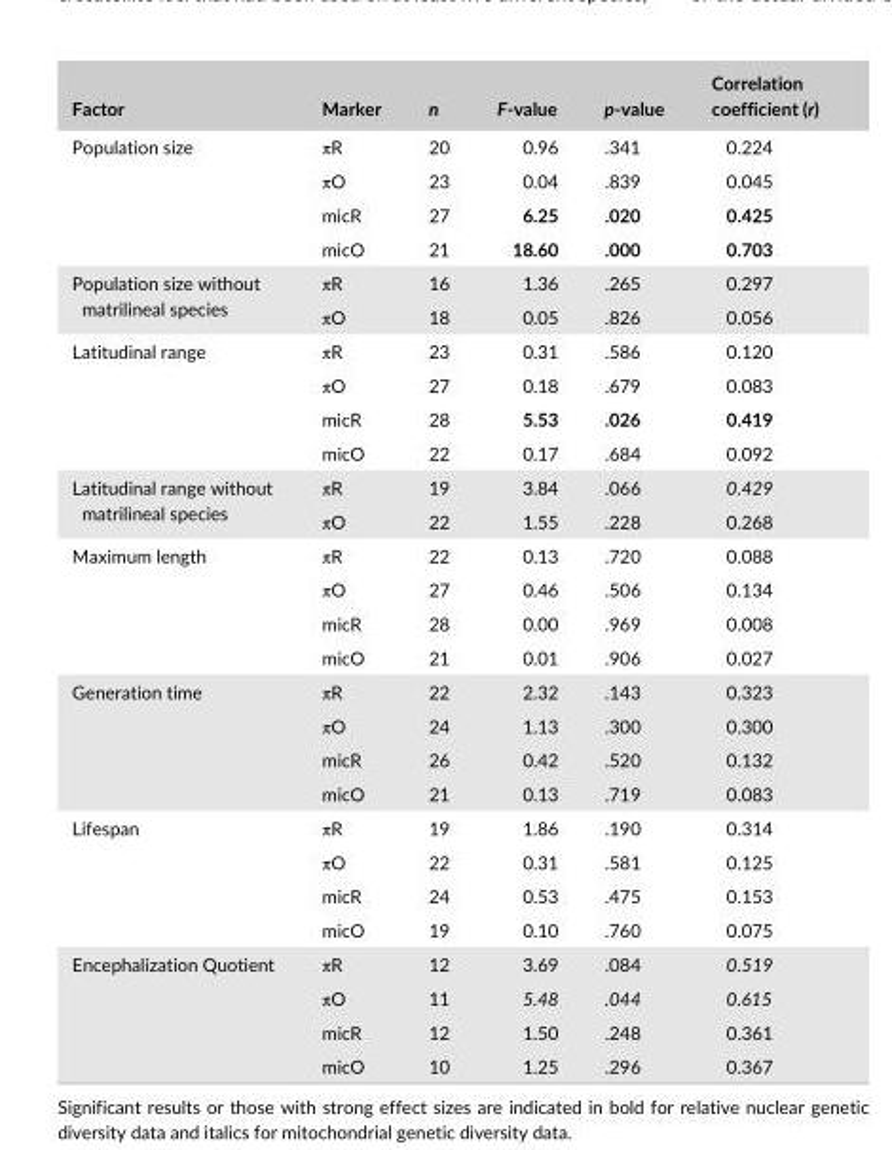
<table><thead><tr><td>Factor</td><td>Marker</td><td>n</td><td>F- value</td><td>p- value</td><td>Correlation coefficient (r)</td></tr></thead><tbody><tr><td rowspan="4">Population size</td><td>πR</td><td>20</td><td>0.96</td><td>.341</td><td>0.224</td></tr><tr><td>πO</td><td>23</td><td>0.04</td><td>.839</td><td>0.045</td></tr><tr><td>micR</td><td>27</td><td>6.25</td><td>.020</td><td>0.425</td></tr><tr><td>micO</td><td>21</td><td>18.60</td><td>.000</td><td>0.703</td></tr><tr><td rowspan="2">Population size without matrilineal species</td><td>πR</td><td>16</td><td>1.36</td><td>.265</td><td>0.297</td></tr><tr><td>πO</td><td>18</td><td>0.05</td><td>.826</td><td>0.056</td></tr><tr><td rowspan="4">Latitudinal range</td><td>πR</td><td>23</td><td>0.31</td><td>.586</td><td>0.120</td></tr><tr><td>πO</td><td>27</td><td>0.18</td><td>.679</td><td>0.083</td></tr><tr><td>micR</td><td>28</td><td>5.53</td><td>.026</td><td>0.419</td></tr><tr><td>micO</td><td>22</td><td>0.17</td><td>.684</td><td>0.092</td></tr><tr><td rowspan="2">Latitudinal range without matrilineal species</td><td>πR</td><td>19</td><td>3.84</td><td>.066</td><td>0.429</td></tr><tr><td>πO</td><td>22</td><td>1.55</td><td>.228</td><td>0.268</td></tr><tr><td rowspan="4">Maximum length</td><td>πR</td><td>22</td><td>0.13</td><td>.720</td><td>0.088</td></tr><tr><td>πO</td><td>27</td><td>0.46</td><td>.506</td><td>0.134</td></tr><tr><td>micR</td><td>28</td><td>0.00</td><td>.969</td><td>0.008</td></tr><tr><td>micO</td><td>21</td><td>0.01</td><td>.906</td><td>0.027</td></tr><tr><td rowspan="4">Generation time</td><td>πR</td><td>22</td><td>2.32</td><td>.143</td><td>0.323</td></tr><tr><td>πO</td><td>24</td><td>1.13</td><td>.300</td><td>0.300</td></tr><tr><td>micR</td><td>26</td><td>0.42</td><td>.520</td><td>0.132</td></tr><tr><td>micO</td><td>21</td><td>0.13</td><td>.719</td><td>0.083</td></tr><tr><td rowspan="4">Lifespan</td><td>πR</td><td>19</td><td>1.86</td><td>.190</td><td>0.314</td></tr><tr><td>πO</td><td>22</td><td>0.31</td><td>.581</td><td>0.125</td></tr><tr><td>micR</td><td>24</td><td>0.53</td><td>.475</td><td>0.153</td></tr><tr><td>micO</td><td>19</td><td>0.10</td><td>.760</td><td>0.075</td></tr><tr><td rowspan="4">Encephalization Quotient</td><td>πR</td><td>12</td><td>3.69</td><td>.084</td><td>0.519</td></tr><tr><td>πO</td><td>11</td><td>5.48</td><td>.044</td><td>0.615</td></tr><tr><td>micR</td><td>12</td><td>1.50</td><td>.248</td><td>0.361</td></tr><tr><td>micO</td><td>10</td><td>1.25</td><td>.296</td><td>0.367</td></tr></tbody></table>